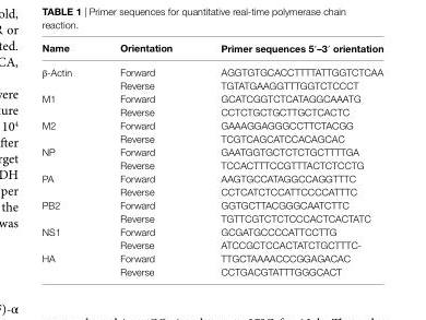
<table><thead><tr><td>name</td><td>Orientation</td><td>Primer sequences 5′–3′ orientation</td></tr></thead><tbody><tr><td rowspan="2">β-Actin</td><td>Forward</td><td>AGGTGTGCACCTTTTATTGGTCTCAA</td></tr><tr><td>Reverse</td><td>TGTATGAAGGTTTGGTCTCCCT</td></tr><tr><td rowspan="2">M1</td><td>Forward</td><td>GCATCGGTCTCATAGGCAAATG</td></tr><tr><td>Reverse</td><td>CCTCTGCTGCTTGCTCACTC</td></tr><tr><td rowspan="2">M2</td><td>Forward</td><td>GAAAGGAGGGCCTTCTACGG</td></tr><tr><td>Reverse</td><td>TCGTCAGCATCCACAGCAC</td></tr><tr><td rowspan="2">NP</td><td>Forward</td><td>GAATGGTGCTCTCTGCTTTTGA</td></tr><tr><td>Reverse</td><td>TCCACTTTCCGTTTACTCTCCTG</td></tr><tr><td rowspan="2">PA</td><td>Forward</td><td>AAGTGCCATAGGCCAGGTTTC</td></tr><tr><td>Reverse</td><td>CCTCATCTCCATTCCCCATTTC</td></tr><tr><td rowspan="2">PB2</td><td>Forward</td><td>GGTGCTTACGGGCAATCTTC</td></tr><tr><td>Reverse</td><td>TGTTCGTCTCTCCCACTCACTATC</td></tr><tr><td rowspan="2">NS1</td><td>Forward</td><td>GCGATGCCCCATTCCTTG</td></tr><tr><td>Reverse</td><td>ATCCGCTCCACTATCTGCTTTC-</td></tr><tr><td rowspan="2">HA</td><td>Forward</td><td>TTGCTAAAACCCGGAGACAC</td></tr><tr><td>Reverse</td><td>CCTGACGTATTTGGGCACT</td></tr></tbody></table>